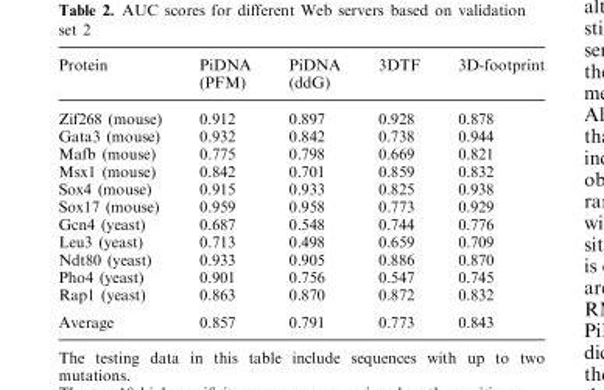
<table><thead><tr><td>Protein</td><td>PiDNA (PFM)</td><td>PiDNA (ddG)</td><td>3DTF</td><td>3D-footprint</td></tr></thead><tbody><tr><td>Zif268 (mouse)</td><td>0.912</td><td>0.897</td><td>0.928</td><td>0.878</td></tr><tr><td>Gata3 (mouse)</td><td>0.932</td><td>0.842</td><td>0.738</td><td>0.944</td></tr><tr><td>Mafb (mouse)</td><td>0.775</td><td>0.798</td><td>0.669</td><td>0.821</td></tr><tr><td>Msx1 (mouse)</td><td>0.842</td><td>0.701</td><td>0.859</td><td>0.832</td></tr><tr><td>Sox4 (mouse)</td><td>0.915</td><td>0.933</td><td>0.825</td><td>0.938</td></tr><tr><td>Sox17 (mouse)</td><td>0.959</td><td>0.958</td><td>0.773</td><td>0.929</td></tr><tr><td>Gcn4 (yeast)</td><td>0.687</td><td>0.548</td><td>0.744</td><td>0.776</td></tr><tr><td>Leu3 (yeast)</td><td>0.713</td><td>0.498</td><td>0.659</td><td>0.709</td></tr><tr><td>Ndt80 (yeast)</td><td>0.933</td><td>0.905</td><td>0.886</td><td>0.870</td></tr><tr><td>Pho4 (yeast)</td><td>0.901</td><td>0.756</td><td>0.547</td><td>0.745</td></tr><tr><td>Rap1 (yeast)</td><td>0.863</td><td>0.870</td><td>0.872</td><td>0.832</td></tr><tr><td>Average</td><td>0.857</td><td>0.791</td><td>0.773</td><td>0.843</td></tr></tbody></table>